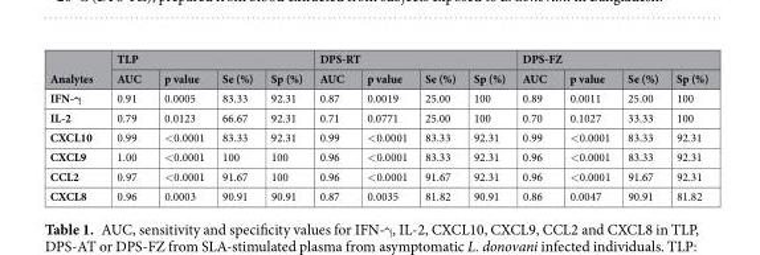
<table><thead><tr><td rowspan="2">Analytes</td><td colspan="4">TLP</td><td colspan="4">DPS-RT</td><td colspan="4">DPS-FZ</td></tr><tr><td>AUC</td><td>p value</td><td>Se (%)</td><td>Sp (%)</td><td>AUC</td><td>p value</td><td>Se (%)</td><td>Sp (%)</td><td>AUC</td><td>p value</td><td>Se (%)</td><td>Sp (%)</td></tr></thead><tbody><tr><td>IFN-γ</td><td>0.91</td><td>0.0005</td><td>83.33</td><td>92.31</td><td>0.87</td><td>0.0019</td><td>25.00</td><td>100</td><td>0.89</td><td>0.0011</td><td>25.00</td><td>100</td></tr><tr><td>IL-2</td><td>0.79</td><td>0.0123</td><td>66.67</td><td>92.31</td><td>0.71</td><td>0.0771</td><td>25.00</td><td>100</td><td>0.70</td><td>0.1027</td><td>33.33</td><td>100</td></tr><tr><td>CXCL10</td><td>0.99</td><td>&lt;0.0001</td><td>83.33</td><td>92.31</td><td>0.99</td><td>&lt;0.0001</td><td>83.33</td><td>92.31</td><td>0.99</td><td>&lt;0.0001</td><td>83.33</td><td>92.31</td></tr><tr><td>CXCL9</td><td>1.00</td><td>&lt;0.0001</td><td>100</td><td>100</td><td>0.96</td><td>&lt;0.0001</td><td>83.33</td><td>92.31</td><td>0.96</td><td>&lt;0.0001</td><td>83.33</td><td>92.31</td></tr><tr><td>CCL2</td><td>0.97</td><td>&lt;0.0001</td><td>91.67</td><td>100</td><td>0.96</td><td>&lt;0.0001</td><td>91.67</td><td>92.31</td><td>0.96</td><td>&lt;0.0001</td><td>91.67</td><td>92.31</td></tr><tr><td>CXCL8</td><td>0.96</td><td>0.0003</td><td>90.91</td><td>90.91</td><td>0.87</td><td>0.0035</td><td>81.82</td><td>90.91</td><td>0.86</td><td>0.0047</td><td>90.91</td><td>81.82</td></tr></tbody></table>